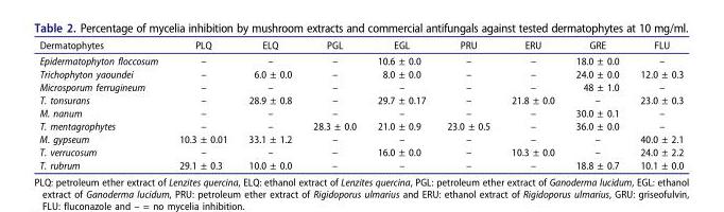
<table><thead><tr><td>Dermatophytes</td><td>PLQ</td><td>ELQ</td><td>PGL</td><td>EGL</td><td>PRU</td><td>ERU</td><td>GRE</td><td>FLU</td></tr></thead><tbody><tr><td>Epidermatophyton floccosum</td><td>–</td><td>–</td><td>–</td><td>10.6 ± 0.0</td><td>–</td><td>–</td><td>18.0 ± 0.0</td><td>–</td></tr><tr><td>Trichophyton yaoundei</td><td>–</td><td>6.0 ± 0.0</td><td>–</td><td>8.0 ± 0.0</td><td>–</td><td>–</td><td>24.0 ± 0.0</td><td>12.0 ± 0.3</td></tr><tr><td>Microsporum ferrugineum</td><td>–</td><td>–</td><td>–</td><td>–</td><td>–</td><td>–</td><td>48 ± 1.0</td><td>–</td></tr><tr><td>T. tonsurans</td><td>–</td><td>28.9 ± 0.8</td><td>–</td><td>29.7 ± 0.17</td><td>–</td><td>21.8 ± 0.0</td><td>–</td><td>23.0 ± 0.3</td></tr><tr><td>M. nanum</td><td>–</td><td>–</td><td>–</td><td>–</td><td>–</td><td>–</td><td>30.0 ± 0.1</td><td>–</td></tr><tr><td>T. mentagrophytes</td><td>–</td><td>–</td><td>28.3 ± 0.0</td><td>21.0 ± 0.9</td><td>23.0 ± 0.5</td><td>–</td><td>36.0 ± 0.0</td><td>–</td></tr><tr><td>M. gypseum</td><td>10.3 ± 0.01</td><td>33.1 ± 1.2</td><td>–</td><td>–</td><td>–</td><td>–</td><td>–</td><td>40.0 ± 2.1</td></tr><tr><td>T. verrucosum</td><td>–</td><td>–</td><td>–</td><td>16.0 ± 0.0</td><td>–</td><td>10.3 ± 0.0</td><td>–</td><td>24.0 ± 2.2</td></tr><tr><td>T. rubrum</td><td>29.1 ± 0.3</td><td>10.0 ± 0.0</td><td>–</td><td>–</td><td>–</td><td>–</td><td>18.8 ± 0.7</td><td>10.1 ± 0.0</td></tr></tbody></table>